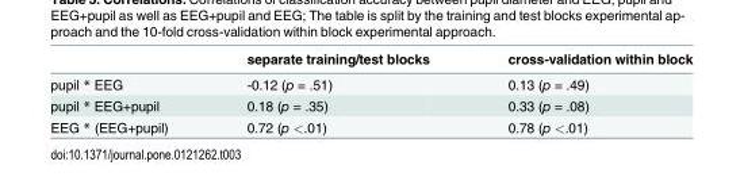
<table><thead><tr><td></td><td>separate training/test blocks</td><td>cross-validation within block</td></tr></thead><tbody><tr><td>pupil * EEG</td><td>-0.12 (p = .51)</td><td>0.13 (p = .49)</td></tr><tr><td>pupil * EEG+pupil</td><td>0.18 (p = .35)</td><td>0.33 (p = .08)</td></tr><tr><td>EEG * (EEG+pupil)</td><td>0.72 (p &lt;.01)</td><td>0.78 (p &lt;.01)</td></tr></tbody></table>